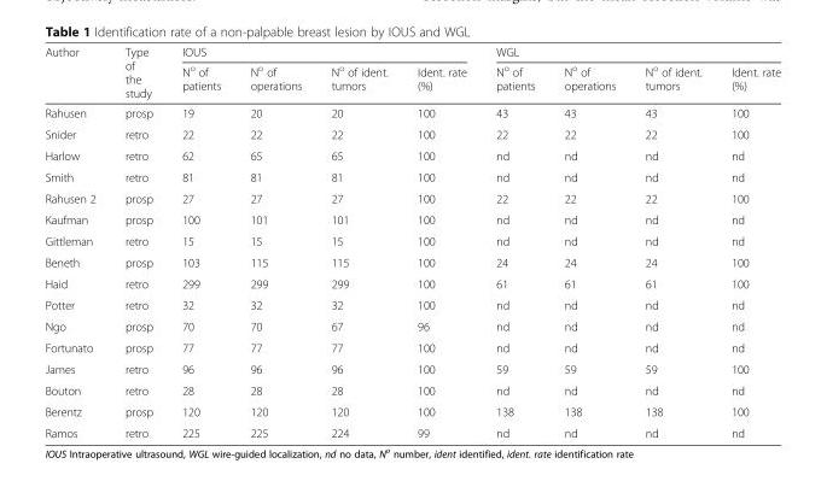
<table><thead><tr><td rowspan="2">Author</td><td rowspan="2">Type of the study</td><td colspan="4">IOUS</td><td colspan="4">WGL</td></tr><tr><td>N<sup>o</sup> of patients</td><td>N<sup>o</sup> of operations</td><td>N<sup>o</sup> of ident. tumors</td><td>Ident. rate (%)</td><td>N<sup>o</sup> of patients</td><td>N<sup>o</sup> of operations</td><td>N<sup>o</sup> of ident. tumors</td><td>Ident. rate (%)</td></tr></thead><tbody><tr><td>Rahusen</td><td>prosp</td><td>19</td><td>20</td><td>20</td><td>100</td><td>43</td><td>43</td><td>43</td><td>100</td></tr><tr><td>Snider</td><td>retro</td><td>22</td><td>22</td><td>22</td><td>100</td><td>22</td><td>22</td><td>22</td><td>100</td></tr><tr><td>Harlow</td><td>retro</td><td>62</td><td>65</td><td>65</td><td>100</td><td>nd</td><td>nd</td><td>nd</td><td>nd</td></tr><tr><td>Smith</td><td>retro</td><td>81</td><td>81</td><td>81</td><td>100</td><td>nd</td><td>nd</td><td>nd</td><td>nd</td></tr><tr><td>Rahusen 2</td><td>prosp</td><td>27</td><td>27</td><td>27</td><td>100</td><td>22</td><td>22</td><td>22</td><td>100</td></tr><tr><td>Kaufman</td><td>prosp</td><td>100</td><td>101</td><td>101</td><td>100</td><td>nd</td><td>nd</td><td>nd</td><td>nd</td></tr><tr><td>Gittleman</td><td>retro</td><td>15</td><td>15</td><td>15</td><td>100</td><td>nd</td><td>nd</td><td>nd</td><td>nd</td></tr><tr><td>Beneth</td><td>prosp</td><td>103</td><td>115</td><td>115</td><td>100</td><td>24</td><td>24</td><td>24</td><td>100</td></tr><tr><td>Haid</td><td>retro</td><td>299</td><td>299</td><td>299</td><td>100</td><td>61</td><td>61</td><td>61</td><td>100</td></tr><tr><td>Potter</td><td>retro</td><td>32</td><td>32</td><td>32</td><td>100</td><td>nd</td><td>nd</td><td>nd</td><td>nd</td></tr><tr><td>Ngo</td><td>prosp</td><td>70</td><td>70</td><td>67</td><td>96</td><td>nd</td><td>nd</td><td>nd</td><td>nd</td></tr><tr><td>Fortunato</td><td>prosp</td><td>77</td><td>77</td><td>77</td><td>100</td><td>nd</td><td>nd</td><td>nd</td><td>nd</td></tr><tr><td>James</td><td>retro</td><td>96</td><td>96</td><td>96</td><td>100</td><td>59</td><td>59</td><td>59</td><td>100</td></tr><tr><td>Bouton</td><td>retro</td><td>28</td><td>28</td><td>28</td><td>100</td><td>nd</td><td>nd</td><td>nd</td><td>nd</td></tr><tr><td>Berentz</td><td>prosp</td><td>120</td><td>120</td><td>120</td><td>100</td><td>138</td><td>138</td><td>138</td><td>100</td></tr><tr><td>Ramos</td><td>retro</td><td>225</td><td>225</td><td>224</td><td>99</td><td>nd</td><td>nd</td><td>nd</td><td>nd</td></tr></tbody></table>